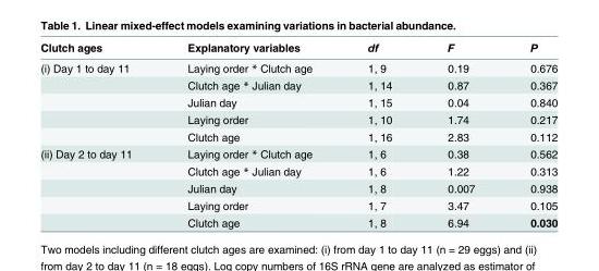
<table><thead><tr><td>Clutch ages</td><td>Explanatory variables</td><td>df</td><td>F</td><td>P</td></tr></thead><tbody><tr><td rowspan="5">(i) Day 1 to day 11</td><td>Laying order * Clutch age</td><td>1, 9</td><td>0.19</td><td>0.676</td></tr><tr><td>Clutch age * Julian day</td><td>1, 14</td><td>0.87</td><td>0.367</td></tr><tr><td>Julian day</td><td>1, 15</td><td>0.04</td><td>0.840</td></tr><tr><td>Laying order</td><td>1, 10</td><td>1.74</td><td>0.217</td></tr><tr><td>Clutch age</td><td>1, 16</td><td>2.83</td><td>0.112</td></tr><tr><td rowspan="5">(ii) Day 2 to day 11</td><td>Laying order * Clutch age</td><td>1, 6</td><td>0.38</td><td>0.562</td></tr><tr><td>Clutch age * Julian day</td><td>1, 6</td><td>1.22</td><td>0.313</td></tr><tr><td>Julian day</td><td>1, 8</td><td>0.007</td><td>0.938</td></tr><tr><td>Laying order</td><td>1, 7</td><td>3.47</td><td>0.105</td></tr><tr><td>Clutch age</td><td>1, 8</td><td>6.94</td><td>0.030</td></tr></tbody></table>